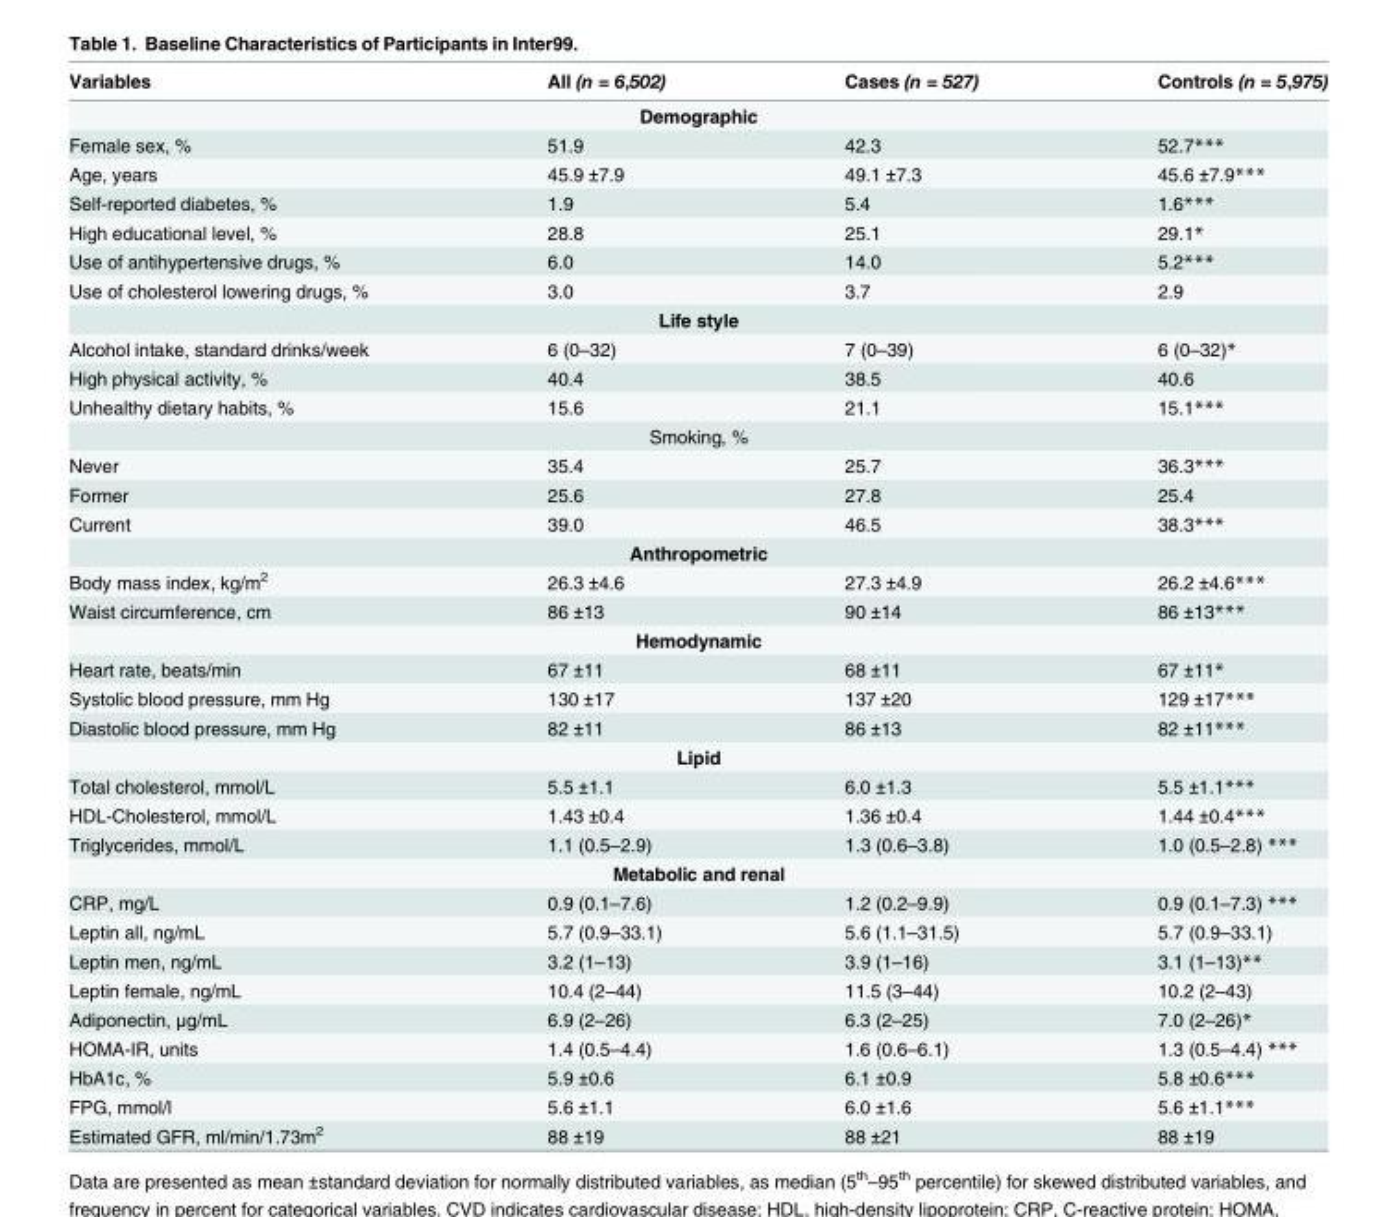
<table><thead><tr><td>Variables</td><td>All (n = 6,502)</td><td>Cases (n = 527)</td><td>Controls (n = 5,975)</td></tr></thead><tbody><tr><td colspan="4">Demographic</td></tr><tr><td>Female sex, %</td><td>51.9</td><td>42.3</td><td>52.7***</td></tr><tr><td>Age, years</td><td>45.9 ±7.9</td><td>49.1 ±7.3</td><td>45.6 ±7.9***</td></tr><tr><td>Self-reported diabetes, %</td><td>1.9</td><td>5.4</td><td>1.6***</td></tr><tr><td>High educational level, %</td><td>28.8</td><td>25.1</td><td>29.1*</td></tr><tr><td>Use of antihypertensive drugs, %</td><td>6.0</td><td>14.0</td><td>5.2***</td></tr><tr><td>Use of cholesterol lowering drugs, %</td><td>3.0</td><td>3.7</td><td>2.9</td></tr><tr><td colspan="4">Life style</td></tr><tr><td>Alcohol intake, standard drinks/week</td><td>6 (0–32)</td><td>7 (0–39)</td><td>6 (0–32)*</td></tr><tr><td>High physical activity, %</td><td>40.4</td><td>38.5</td><td>40.6</td></tr><tr><td>Unhealthy dietary habits, %</td><td>15.6</td><td>21.1</td><td>15.1***</td></tr><tr><td colspan="4">Smoking, %</td></tr><tr><td>Never</td><td>35.4</td><td>25.7</td><td>36.3***</td></tr><tr><td>Former</td><td>25.6</td><td>27.8</td><td>25.4</td></tr><tr><td>Current</td><td>39.0</td><td>46.5</td><td>38.3***</td></tr><tr><td colspan="4">Anthropometric</td></tr><tr><td>Body mass index, kg/m<sup>2</sup></td><td>26.3 ±4.6</td><td>27.3 ±4.9</td><td>26.2 ±4.6***</td></tr><tr><td>Waist circumference, cm</td><td>86 ±13</td><td>90 ±14</td><td>86 ±13***</td></tr><tr><td colspan="4">Hemodynamic</td></tr><tr><td>Heart rate, beats/min</td><td>67 ±11</td><td>68 ±11</td><td>67 ±11*</td></tr><tr><td>Systolic blood pressure, mm Hg</td><td>130 ±17</td><td>137 ±20</td><td>129 ±17***</td></tr><tr><td>Diastolic blood pressure, mm Hg</td><td>82 ±11</td><td>86 ±13</td><td>82 ±11***</td></tr><tr><td colspan="4">Lipid</td></tr><tr><td>Total cholesterol, mmol/L</td><td>5.5 ±1.1</td><td>6.0 ±1.3</td><td>5.5 ±1.1***</td></tr><tr><td>HDL-Cholesterol, mmol/L</td><td>1.43 ±0.4</td><td>1.36 ±0.4</td><td>1.44 ±0.4***</td></tr><tr><td>Triglycerides, mmol/L</td><td>1.1 (0.5–2.9)</td><td>1.3 (0.6–3.8)</td><td>1.0 (0.5–2.8) ***</td></tr><tr><td colspan="4">Metabolic and renal</td></tr><tr><td>CRP, mg/L</td><td>0.9 (0.1–7.6)</td><td>1.2 (0.2–9.9)</td><td>0.9 (0.1–7.3) ***</td></tr><tr><td>Leptin all, ng/mL</td><td>5.7 (0.9–33.1)</td><td>5.6 (1.1–31.5)</td><td>5.7 (0.9–33.1)</td></tr><tr><td>Leptin men, ng/mL</td><td>3.2 (1–13)</td><td>3.9 (1–16)</td><td>3.1 (1–13)**</td></tr><tr><td>Leptin female, ng/mL</td><td>10.4 (2–44)</td><td>11.5 (3–44)</td><td>10.2 (2–43)</td></tr><tr><td>Adiponectin, μg/mL</td><td>6.9 (2–26)</td><td>6.3 (2–25)</td><td>7.0 (2–26)*</td></tr><tr><td>HOMA-IR, units</td><td>1.4 (0.5–4.4)</td><td>1.6 (0.6–6.1)</td><td>1.3 (0.5–4.4) ***</td></tr><tr><td>HbA1c, %</td><td>5.9 ±0.6</td><td>6.1 ±0.9</td><td>5.8 ±0.6***</td></tr><tr><td>FPG, mmol/l</td><td>5.6 ±1.1</td><td>6.0 ±1.6</td><td>5.6 ±1.1***</td></tr><tr><td>Estimated GFR, ml/min/1.73m<sup>2</sup></td><td>88 ±19</td><td>88 ±21</td><td>88 ±19</td></tr></tbody></table>